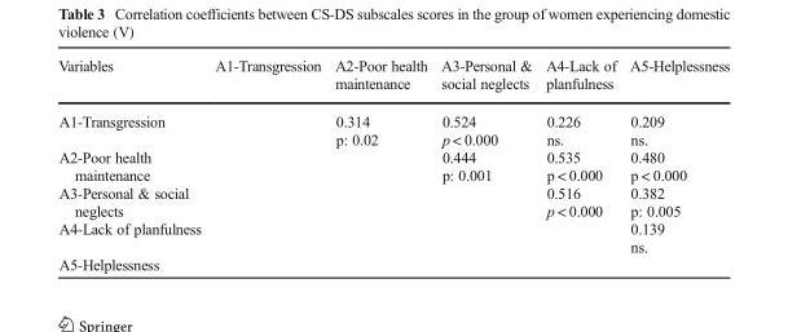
<table><thead><tr><td>Variables</td><td>A1-Transgression</td><td>A2-Poor health maintenance</td><td>A3-Personal &amp; social neglects</td><td>A4-Lack of planfulness</td><td>A5-Helplessness</td></tr></thead><tbody><tr><td>A1-Transgression</td><td></td><td>0.314 p: 0.02</td><td>0.524 p &lt; 0.000</td><td>0.226 ns.</td><td>0.209 ns.</td></tr><tr><td>A2-Poor health maintenance</td><td></td><td></td><td>0.444 p: 0.001</td><td>0.535 p &lt; 0.000</td><td>0.480 p &lt; 0.000</td></tr><tr><td>A3-Personal &amp; social neglects</td><td></td><td></td><td></td><td>0.516 p &lt; 0.000</td><td>0.382 p: 0.005</td></tr><tr><td>A4-Lack of planfulness</td><td></td><td></td><td></td><td></td><td>0.139 ns.</td></tr><tr><td>A5-Helplessness</td><td></td><td></td><td></td><td></td><td></td></tr></tbody></table>